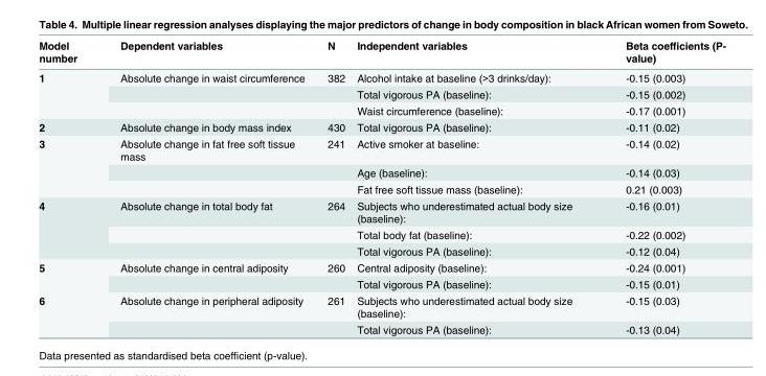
<table><thead><tr><td>Model number</td><td>Dependent variables</td><td>N</td><td>Independent variables</td><td>Beta coefficients (P- value)</td></tr></thead><tbody><tr><td rowspan="3">1</td><td>Absolute change in waist circumference</td><td>382</td><td>Alcohol intake at baseline (&gt;3 drinks/day):</td><td>-0.15 (0.003)</td></tr><tr><td></td><td></td><td>Total vigorous PA (baseline):</td><td>-0.15 (0.002)</td></tr><tr><td></td><td></td><td>Waist circumference (baseline):</td><td>-0.17 (0.001)</td></tr><tr><td>2</td><td>Absolute change in body mass index</td><td>430</td><td>Total vigorous PA (baseline):</td><td>-0.11 (0.02)</td></tr><tr><td rowspan="3">3</td><td>Absolute change in fat free soft tissue mass</td><td>241</td><td>Active smoker at baseline:</td><td>-0.14 (0.02)</td></tr><tr><td></td><td></td><td>Age (baseline):</td><td>-0.14 (0.03)</td></tr><tr><td></td><td></td><td>Fat free soft tissue mass (baseline):</td><td>0.21 (0.003)</td></tr><tr><td rowspan="3">4</td><td>Absolute change in total body fat</td><td>264</td><td>Subjects who underestimated actual body size (baseline):</td><td>-0.16 (0.01)</td></tr><tr><td></td><td></td><td>Total body fat (baseline):</td><td>-0.22 (0.002)</td></tr><tr><td></td><td></td><td>Total vigorous PA (baseline):</td><td>-0.12 (0.04)</td></tr><tr><td rowspan="2">5</td><td>Absolute change in central adiposity</td><td>260</td><td>Central adiposity (baseline):</td><td>-0.24 (0.001)</td></tr><tr><td></td><td></td><td>Total vigorous PA (baseline):</td><td>-0.15 (0.01)</td></tr><tr><td rowspan="2">6</td><td>Absolute change in peripheral adiposity</td><td>261</td><td>Subjects who underestimated actual body size (baseline):</td><td>-0.15 (0.03)</td></tr><tr><td></td><td></td><td>Total vigorous PA (baseline):</td><td>-0.13 (0.04)</td></tr></tbody></table>